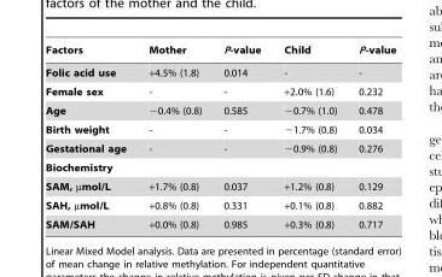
<table><thead><tr><td>Factors</td><td>Mother</td><td>P-value</td><td>Child</td><td>P-value</td></tr></thead><tbody><tr><td>Folic acid use</td><td>+4.5% (1.8)</td><td>0.014</td><td>-</td><td>-</td></tr><tr><td>Female sex</td><td>-</td><td>-</td><td>+2.0% (1.6)</td><td>0.232</td></tr><tr><td>Age</td><td>−0.4% (0.8)</td><td>0.585</td><td>−0.7% (1.0)</td><td>0.478</td></tr><tr><td>Birth weight</td><td>-</td><td>-</td><td>−1.7% (0.8)</td><td>0.034</td></tr><tr><td>Gestational age</td><td>-</td><td>-</td><td>−0.9% (0.8)</td><td>0.276</td></tr><tr><td colspan="5">Biochemistry</td></tr><tr><td>SAM, µmol/L</td><td>+1.7% (0.8)</td><td>0.037</td><td>+1.2% (0.8)</td><td>0.129</td></tr><tr><td>SAH, µmol/L</td><td>+0.8% (0.8)</td><td>0.331</td><td>+0.1% (0.8)</td><td>0.882</td></tr><tr><td>SAM/SAH</td><td>+0.0% (0.8)</td><td>0.985</td><td>+0.3% (0.8)</td><td>0.717</td></tr></tbody></table>